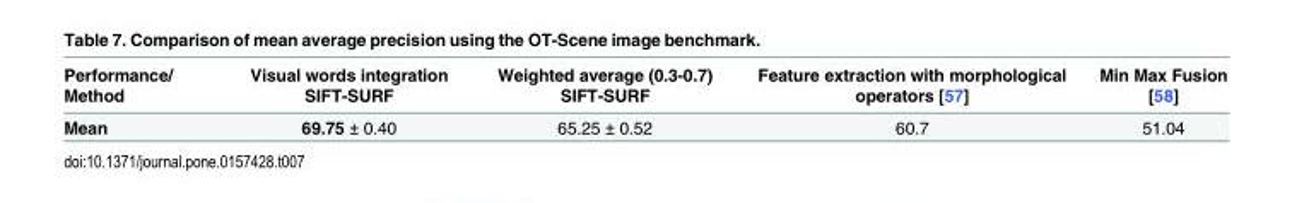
<table><thead><tr><td>Performance/ Method</td><td>Visual words integration SIFT-SURF</td><td>Weighted average (0.3-0.7) SIFT-SURF</td><td>Feature extraction with morphological operators [57]</td><td>Min Max Fusion [58]</td></tr></thead><tbody><tr><td>Mean</td><td>69.75 ± 0.40</td><td>65.25 ± 0.52</td><td>60.7</td><td>51.04</td></tr></tbody></table>